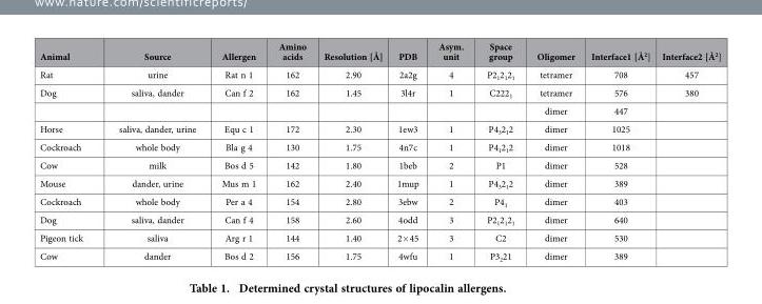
<table><thead><tr><td>Animal</td><td>Source</td><td>Allergen</td><td>Amino acids</td><td>Resolution [Å]</td><td>PDB</td><td>Asym. unit</td><td>Space group</td><td>Oligomer</td><td>Interface1 [Å<sup>2</sup>]</td><td>Interface2 [Å<sup>2</sup>]</td></tr></thead><tbody><tr><td>Rat</td><td>urine</td><td>Rat n 1</td><td>162</td><td>2.90</td><td>2a2g</td><td>4</td><td>P2<sub>1</sub>2<sub>1</sub>2<sub>1</sub></td><td>tetramer</td><td>708</td><td>457</td></tr><tr><td rowspan="2">Dog</td><td>saliva, dander</td><td>Can f 2</td><td>162</td><td>1.45</td><td>3l4r</td><td>1</td><td>C222<sub>1</sub></td><td>tetramer</td><td>576</td><td>380</td></tr><tr><td></td><td></td><td></td><td></td><td></td><td></td><td></td><td>dimer</td><td>447</td><td></td></tr><tr><td>Horse</td><td>saliva, dander, urine</td><td>Equ c 1</td><td>172</td><td>2.30</td><td>1ew3</td><td>1</td><td>P4<sub>3</sub>2<sub>1</sub>2</td><td>dimer</td><td>1025</td><td></td></tr><tr><td>Cockroach</td><td>whole body</td><td>Bla g 4</td><td>130</td><td>1.75</td><td>4n7c</td><td>1</td><td>P4<sub>1</sub>2<sub>1</sub>2</td><td>dimer</td><td>1018</td><td></td></tr><tr><td>Cow</td><td>milk</td><td>Bos d 5</td><td>142</td><td>1.80</td><td>1beb</td><td>2</td><td>P1</td><td>dimer</td><td>528</td><td></td></tr><tr><td>Mouse</td><td>dander, urine</td><td>Mus m 1</td><td>162</td><td>2.40</td><td>1mup</td><td>1</td><td>P4<sub>3</sub>2<sub>1</sub>2</td><td>dimer</td><td>389</td><td></td></tr><tr><td>Cockroach</td><td>whole body</td><td>Per a 4</td><td>154</td><td>2.80</td><td>3ebw</td><td>2</td><td>P4<sub>1</sub></td><td>dimer</td><td>403</td><td></td></tr><tr><td>Dog</td><td>saliva, dander</td><td>Can f 4</td><td>158</td><td>2.60</td><td>4odd</td><td>3</td><td>P2<sub>1</sub>2<sub>1</sub>2<sub>1</sub></td><td>dimer</td><td>640</td><td></td></tr><tr><td>Pigeon tick</td><td>saliva</td><td>Arg r 1</td><td>144</td><td>1.40</td><td>2× 45</td><td>3</td><td>C2</td><td>dimer</td><td>530</td><td></td></tr><tr><td>Cow</td><td>dander</td><td>Bos d 2</td><td>156</td><td>1.75</td><td>4wfu</td><td>1</td><td>P3<sub>2</sub>21</td><td>dimer</td><td>389</td><td></td></tr></tbody></table>